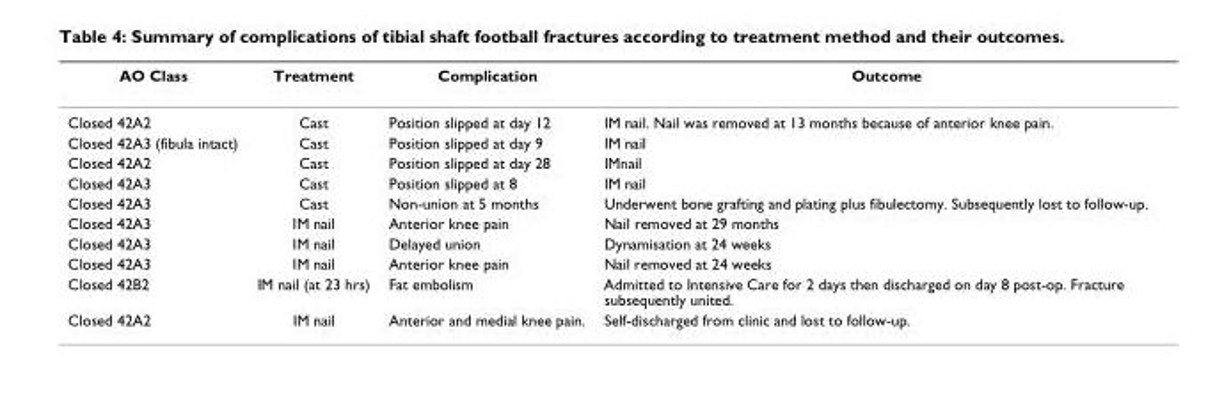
<table><thead><tr><td>AO Class</td><td>Treatment</td><td>Complication</td><td>Outcome</td></tr></thead><tbody><tr><td>Closed 42A2</td><td>Cast</td><td>Position slipped at day 12</td><td>IM nail. Nail was removed at 13 months because of anterior knee pain.</td></tr><tr><td>Closed 42A3 (fibula intact)</td><td>Cast</td><td>Position slipped at day 9</td><td>IM nail</td></tr><tr><td>Closed 42A2</td><td>Cast</td><td>Position slipped at day 28</td><td>IMnail</td></tr><tr><td>Closed 42A3</td><td>Cast</td><td>Position slipped at 8</td><td>IM nail</td></tr><tr><td>Closed 42A3</td><td>Cast</td><td>Non-union at 5 months</td><td>Underwent bone grafting and plating plus fibulectomy. Subsequently lost to follow-up.</td></tr><tr><td>Closed 42A3</td><td>IM nail</td><td>Anterior knee pain</td><td>Nail removed at 29 months</td></tr><tr><td>Closed 42A3</td><td>IM nail</td><td>Delayed union</td><td>Dynamisation at 24 weeks</td></tr><tr><td>Closed 42A3</td><td>IM nail</td><td>Anterior knee pain</td><td>Nail removed at 24 weeks</td></tr><tr><td>Closed 42B2</td><td>IM nail (at 23 hrs)</td><td>Fat embolism</td><td>Admitted to Intensive Care for 2 days then discharged on day 8 post-op. Fracture subsequently united.</td></tr><tr><td>Closed 42A2</td><td>IM nail</td><td>Anterior and medial knee pain.</td><td>Self-discharged from clinic and lost to follow-up.</td></tr></tbody></table>